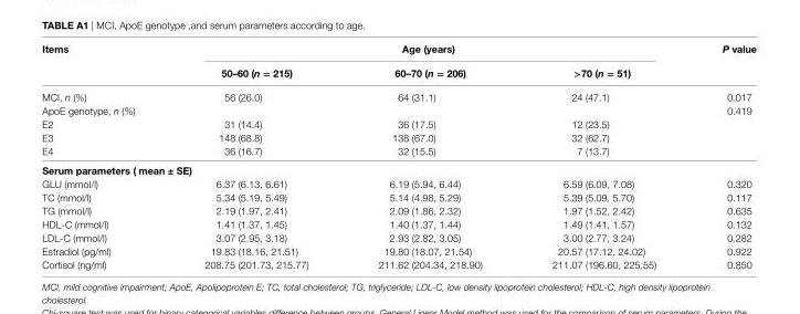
<table><thead><tr><td rowspan="2">items</td><td colspan="3">age (years)</td><td rowspan="2">P value</td></tr><tr><td>50–60 (n = 215)</td><td>60–70 (n = 206)</td><td>&gt;70 (n = 51)</td></tr></thead><tbody><tr><td>MCI, n (%)</td><td>56 (26.0)</td><td>64 (31.1)</td><td>24 (47.1)</td><td>0.017</td></tr><tr><td>ApoE genotype, n (%)</td><td></td><td></td><td></td><td>0.419</td></tr><tr><td>E2</td><td>31 (14.4)</td><td>36 (17.5)</td><td>12 (23.5)</td><td></td></tr><tr><td>E3</td><td>148 (68.8)</td><td>138 (67.0)</td><td>32 (62.7)</td><td></td></tr><tr><td>E4</td><td>36 (16.7)</td><td>32 (15.5)</td><td>7 (13.7)</td><td></td></tr><tr><td colspan="5">serum parameters ( mean ± se)</td></tr><tr><td>GLU (mmol/l)</td><td>6.37 (6.13, 6.61)</td><td>6.19 (5.94, 6.44)</td><td>6.59 (6.09, 7.08)</td><td>0.320</td></tr><tr><td>TC (mmol/l)</td><td>5.34 (5.19, 5.49)</td><td>5.14 (4.98, 5.29)</td><td>5.39 (5.09, 5.70)</td><td>0.117</td></tr><tr><td>TG (mmol/l)</td><td>2.19 (1.97, 2.41)</td><td>2.09 (1.86, 2.32)</td><td>1.97 (1.52, 2.42)</td><td>0.635</td></tr><tr><td>HDL-C (mmol/l)</td><td>1.41 (1.37, 1.45)</td><td>1.40 (1.37, 1.44)</td><td>1.49 (1.41, 1.57)</td><td>0.132</td></tr><tr><td>LDL-C (mmol/l)</td><td>3.07 (2.95, 3.18)</td><td>2.93 (2.82, 3.05)</td><td>3.00 (2.77, 3.24)</td><td>0.282</td></tr><tr><td>Estradiol (pg/ml)</td><td>19.83 (18.16, 21.51)</td><td>19.80 (18.07, 21.54)</td><td>20.57 (17.12, 24.02)</td><td>0.922</td></tr><tr><td>Cortisol (ng/ml)</td><td>208.75 (201.73, 215.77)</td><td>211.62 (204.34, 218.90)</td><td>211.07 (196.60, 225.55)</td><td>0.850</td></tr></tbody></table>